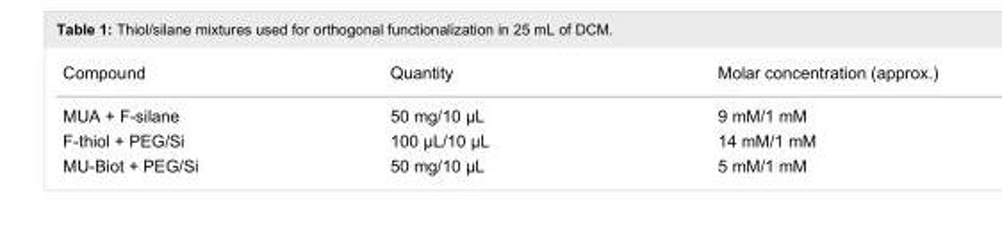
<table><tbody><tr><td>Compound</td><td>Quantity</td><td>Molar concentration (approx.)</td></tr><tr><td>MUA + F-silane</td><td>50 mg/10 µL</td><td>9 mM/1 mM</td></tr><tr><td>F-thiol + PEG/Si</td><td>100 µL/10 µL</td><td>14 mM/1 mM</td></tr><tr><td>MU-Biot + PEG/Si</td><td>50 mg/10 µL</td><td>5 mM/1 mM</td></tr></tbody></table>